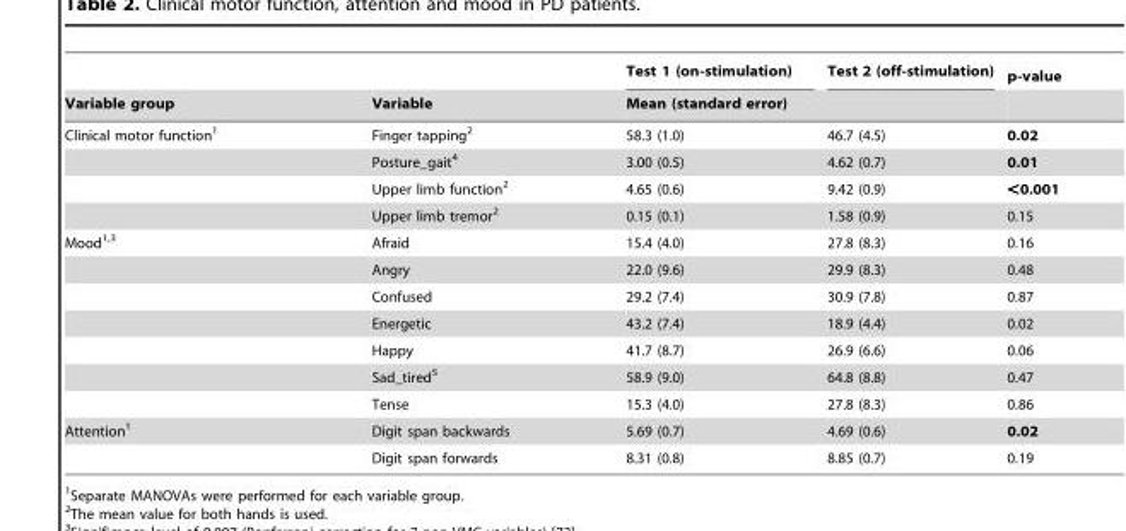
<table><thead><tr><td rowspan="2">Variable group</td><td rowspan="2">Variable</td><td>Test 1 (on-stimulation)</td><td>Test 2 (off-stimulation)</td><td rowspan="2">p-value</td></tr><tr><td colspan="2">Mean (standard error)</td></tr></thead><tbody><tr><td rowspan="4">Clinical motor function<sup>1</sup></td><td>Finger tapping<sup>2</sup></td><td>58.3 (1.0)</td><td>46.7 (4.5)</td><td>0.02</td></tr><tr><td>Posture_gait<sup>4</sup></td><td>3.00 (0.5)</td><td>4.62 (0.7)</td><td>0.01</td></tr><tr><td>Upper limb function<sup>2</sup></td><td>4.65 (0.6)</td><td>9.42 (0.9)</td><td>&lt;0.001</td></tr><tr><td>Upper limb tremor<sup>2</sup></td><td>0.15 (0.1)</td><td>1.58 (0.9)</td><td>0.15</td></tr><tr><td rowspan="7">Mood<sup>1,3</sup></td><td>Afraid</td><td>15.4 (4.0)</td><td>27.8 (8.3)</td><td>0.16</td></tr><tr><td>Angry</td><td>22.0 (9.6)</td><td>29.9 (8.3)</td><td>0.48</td></tr><tr><td>Confused</td><td>29.2 (7.4)</td><td>30.9 (7.8)</td><td>0.87</td></tr><tr><td>Energetic</td><td>43.2 (7.4)</td><td>18.9 (4.4)</td><td>0.02</td></tr><tr><td>Happy</td><td>41.7 (8.7)</td><td>26.9 (6.6)</td><td>0.06</td></tr><tr><td>Sad_tired<sup>5</sup></td><td>58.9 (9.0)</td><td>64.8 (8.8)</td><td>0.47</td></tr><tr><td>Tense</td><td>15.3 (4.0)</td><td>27.8 (8.3)</td><td>0.86</td></tr><tr><td rowspan="2">Attention<sup>1</sup></td><td>Digit span backwards</td><td>5.69 (0.7)</td><td>4.69 (0.6)</td><td>0.02</td></tr><tr><td>Digit span forwards</td><td>8.31 (0.8)</td><td>8.85 (0.7)</td><td>0.19</td></tr></tbody></table>